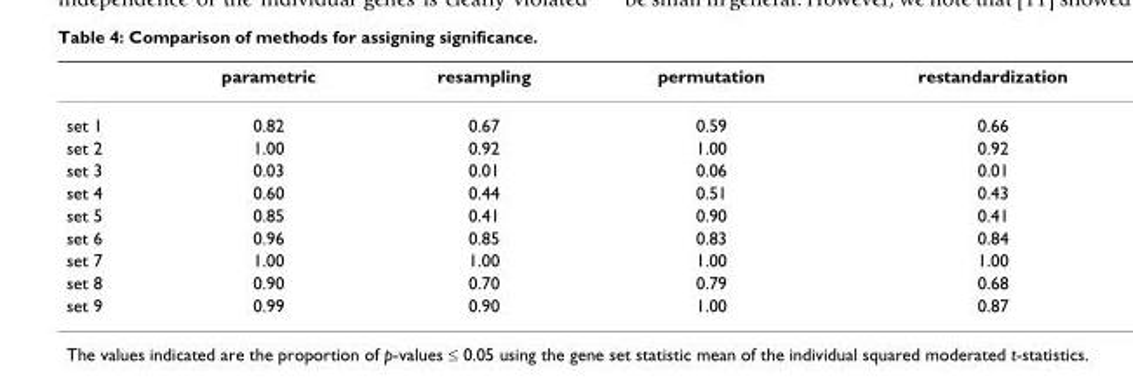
<table><thead><tr><td></td><td>parametric</td><td>resampling</td><td>permutation</td><td>restandardization</td></tr></thead><tbody><tr><td>set 1</td><td>0.82</td><td>0.67</td><td>0.59</td><td>0.66</td></tr><tr><td>set 2</td><td>1.00</td><td>0.92</td><td>1.00</td><td>0.92</td></tr><tr><td>set 3</td><td>0.03</td><td>0.01</td><td>0.06</td><td>0.01</td></tr><tr><td>set 4</td><td>0.60</td><td>0.44</td><td>0.51</td><td>0.43</td></tr><tr><td>set 5</td><td>0.85</td><td>0.41</td><td>0.90</td><td>0.41</td></tr><tr><td>set 6</td><td>0.96</td><td>0.85</td><td>0.83</td><td>0.84</td></tr><tr><td>set 7</td><td>1.00</td><td>1.00</td><td>1.00</td><td>1.00</td></tr><tr><td>set 8</td><td>0.90</td><td>0.70</td><td>0.79</td><td>0.68</td></tr><tr><td>set 9</td><td>0.99</td><td>0.90</td><td>1.00</td><td>0.87</td></tr></tbody></table>